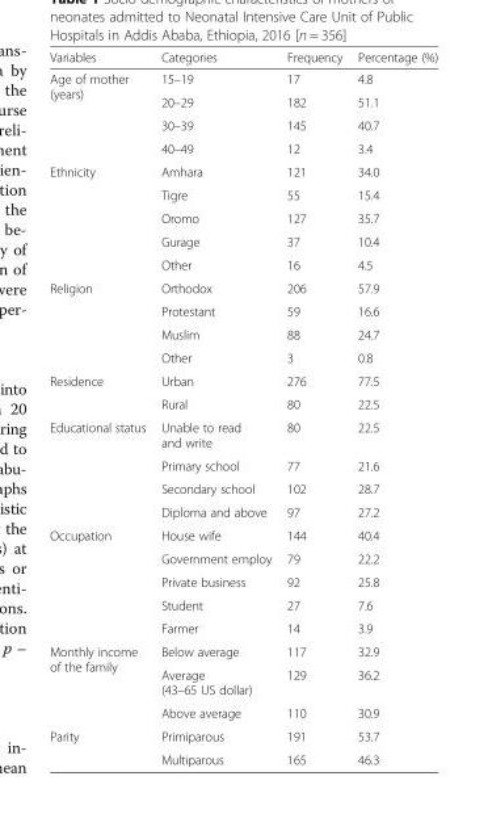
<table><thead><tr><td>Variables</td><td>Categories</td><td>Frequency</td><td>Percentage (%)</td></tr></thead><tbody><tr><td rowspan="4">Age of mother (years)</td><td>15–19</td><td>17</td><td>4.8</td></tr><tr><td>20–29</td><td>182</td><td>51.1</td></tr><tr><td>30–39</td><td>145</td><td>40.7</td></tr><tr><td>40–49</td><td>12</td><td>3.4</td></tr><tr><td rowspan="5">Ethnicity</td><td>Amhara</td><td>121</td><td>34.0</td></tr><tr><td>Tigre</td><td>55</td><td>15.4</td></tr><tr><td>Oromo</td><td>127</td><td>35.7</td></tr><tr><td>Gurage</td><td>37</td><td>10.4</td></tr><tr><td>Other</td><td>16</td><td>4.5</td></tr><tr><td rowspan="4">Religion</td><td>Orthodox</td><td>206</td><td>57.9</td></tr><tr><td>Protestant</td><td>59</td><td>16.6</td></tr><tr><td>Muslim</td><td>88</td><td>24.7</td></tr><tr><td>Other</td><td>3</td><td>0.8</td></tr><tr><td rowspan="2">Residence</td><td>Urban</td><td>276</td><td>77.5</td></tr><tr><td>Rural</td><td>80</td><td>22.5</td></tr><tr><td rowspan="4">Educational status</td><td>Unable to read and write</td><td>80</td><td>22.5</td></tr><tr><td>Primary school</td><td>77</td><td>21.6</td></tr><tr><td>Secondary school</td><td>102</td><td>28.7</td></tr><tr><td>Diploma and above</td><td>97</td><td>27.2</td></tr><tr><td rowspan="5">Occupation</td><td>House wife</td><td>144</td><td>40.4</td></tr><tr><td>Government employ</td><td>79</td><td>22.2</td></tr><tr><td>Private business</td><td>92</td><td>25.8</td></tr><tr><td>Student</td><td>27</td><td>7.6</td></tr><tr><td>Farmer</td><td>14</td><td>3.9</td></tr><tr><td rowspan="3">Monthly income of the family</td><td>Below average</td><td>117</td><td>32.9</td></tr><tr><td>Average (43–65 US dollar)</td><td>129</td><td>36.2</td></tr><tr><td>Above average</td><td>110</td><td>30.9</td></tr><tr><td rowspan="2">Parity</td><td>Primiparous</td><td>191</td><td>53.7</td></tr><tr><td>Multiparous</td><td>165</td><td>46.3</td></tr></tbody></table>